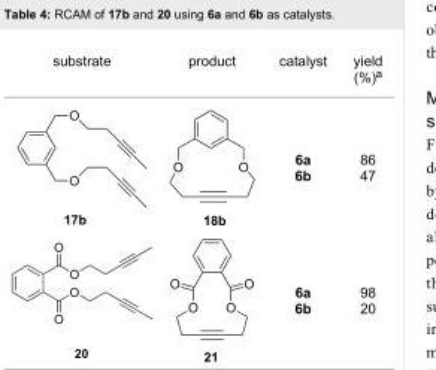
<table><tbody><tr><td rowspan="3">substrate</td><td>product</td><td>catalyst</td><td>yield (%)<sup>a</sup></td></tr><tr><td></td><td>6a 6b</td><td>86 47</td></tr><tr><td></td><td>6a 6b</td><td>98 20</td></tr></tbody></table>